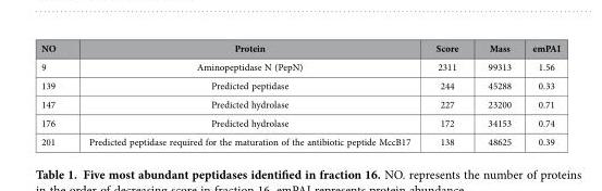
<table><thead><tr><td>NO</td><td>Protein</td><td>Score</td><td>Mass</td><td>emPAI</td></tr></thead><tbody><tr><td>9</td><td>Aminopeptidase N (PepN)</td><td>2311</td><td>99313</td><td>1.56</td></tr><tr><td>139</td><td>Predicted peptidase</td><td>244</td><td>45288</td><td>0.33</td></tr><tr><td>147</td><td>Predicted hydrolase</td><td>227</td><td>23200</td><td>0.71</td></tr><tr><td>176</td><td>Predicted hydrolase</td><td>172</td><td>34153</td><td>0.74</td></tr><tr><td>201</td><td>Predicted peptidase required for the maturation of the antibiotic peptide MccB17</td><td>138</td><td>48625</td><td>0.39</td></tr></tbody></table>